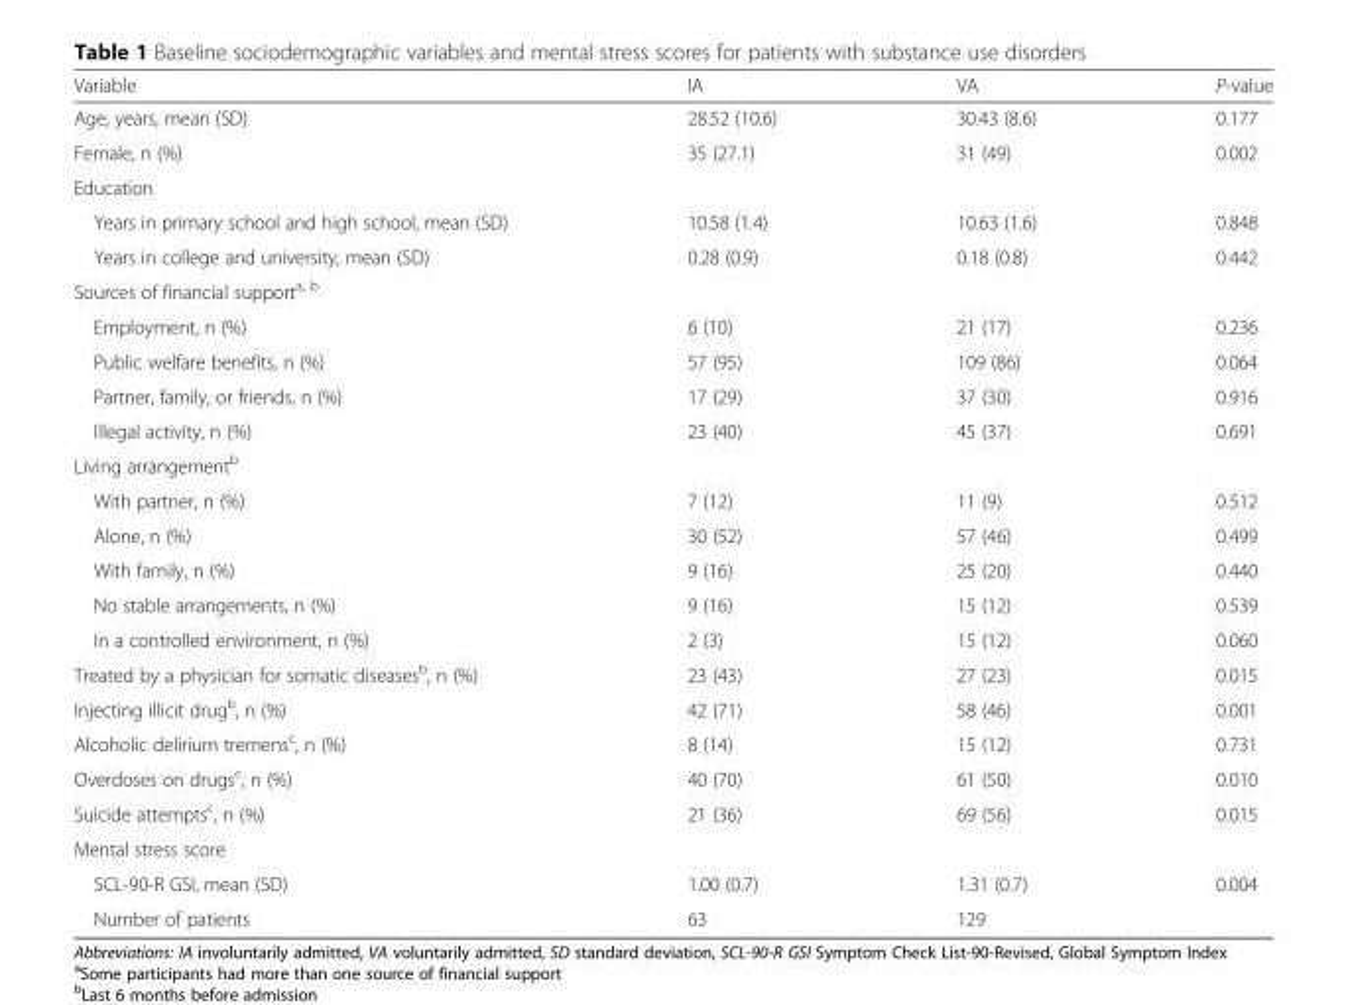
<table><thead><tr><td>Variable</td><td>IA</td><td>VA</td><td>P-value</td></tr></thead><tbody><tr><td>Age, years, mean (SD)</td><td>28.52 (10.6)</td><td>30.43 (8.6)</td><td>0.177</td></tr><tr><td>Female, n (%)</td><td>35 (27.1)</td><td>31 (49)</td><td>0.002</td></tr><tr><td colspan="4">Education</td></tr><tr><td>Years in primary school and high school, mean (SD)</td><td>10.58 (1.4)</td><td>10.63 (1.6)</td><td>0.848</td></tr><tr><td>Years in college and university, mean (SD)</td><td>0.28 (0.9)</td><td>0.18 (0.8)</td><td>0.442</td></tr><tr><td colspan="4">Sources of financial support<sup>a, b</sup></td></tr><tr><td>Employment, n (%)</td><td>6 (10)</td><td>21 (17)</td><td>0.236</td></tr><tr><td>Public welfare benefits, n (%)</td><td>57 (95)</td><td>109 (86)</td><td>0.064</td></tr><tr><td>Partner, family, or friends, n (%)</td><td>17 (29)</td><td>37 (30)</td><td>0.916</td></tr><tr><td>Illegal activity, n (%)</td><td>23 (40)</td><td>45 (37)</td><td>0.691</td></tr><tr><td colspan="4">Living arrangement<sup>b</sup></td></tr><tr><td>With partner, n (%)</td><td>7 (12)</td><td>11 (9)</td><td>0.512</td></tr><tr><td>Alone, n (%)</td><td>30 (52)</td><td>57 (46)</td><td>0.499</td></tr><tr><td>With family, n (%)</td><td>9 (16)</td><td>25 (20)</td><td>0.440</td></tr><tr><td>No stable arrangements, n (%)</td><td>9 (16)</td><td>15 (12)</td><td>0.539</td></tr><tr><td>In a controlled environment, n (%)</td><td>2 (3)</td><td>15 (12)</td><td>0.060</td></tr><tr><td>Treated by a physician for somatic diseases<sup>b</sup>, n (%)</td><td>23 (43)</td><td>27 (23)</td><td>0.015</td></tr><tr><td>Injecting illicit drug<sup>b</sup>, n (%)</td><td>42 (71)</td><td>58 (46)</td><td>0.001</td></tr><tr><td>Alcoholic delirium tremens<sup>c</sup>, n (%)</td><td>8 (14)</td><td>15 (12)</td><td>0.731</td></tr><tr><td>Overdoses on drugs<sup>c</sup>, n (%)</td><td>40 (70)</td><td>61 (50)</td><td>0.010</td></tr><tr><td>Suicide attempts<sup>c</sup>, n (%)</td><td>21 (36)</td><td>69 (56)</td><td>0.015</td></tr><tr><td colspan="4">Mental stress score</td></tr><tr><td>SCL-90-R GSI, mean (SD)</td><td>1.00 (0.7)</td><td>1.31 (0.7)</td><td>0.004</td></tr><tr><td>Number of patients</td><td>63</td><td>129</td><td></td></tr></tbody></table>